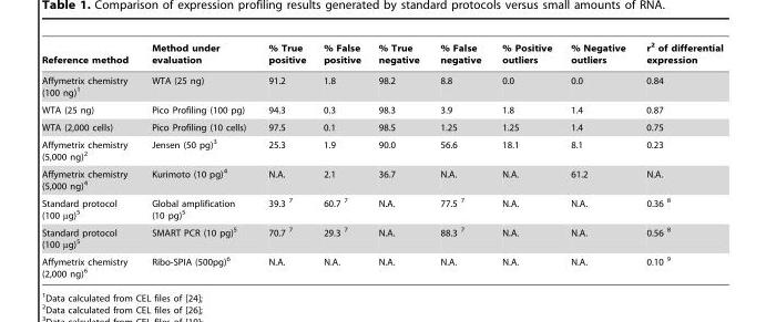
<table><thead><tr><td>Reference method</td><td>Method under evaluation</td><td>% True positive</td><td>% False positive</td><td>% True negative</td><td>% False negative</td><td>% Positive outliers</td><td>% Negative outliers</td><td>r<sup>2</sup> of differential expression</td></tr></thead><tbody><tr><td>Affymetrix chemistry (100 ng)<sup>1</sup></td><td>WTA (25 ng)</td><td>91.2</td><td>1.8</td><td>98.2</td><td>8.8</td><td>0.0</td><td>0.0</td><td>0.84</td></tr><tr><td>WTA (25 ng)</td><td>Pico Profiling (100 pg)</td><td>94.3</td><td>0.3</td><td>98.3</td><td>3.9</td><td>1.8</td><td>1.4</td><td>0.87</td></tr><tr><td>WTA (2,000 cells)</td><td>Pico Profiling (10 cells)</td><td>97.5</td><td>0.1</td><td>98.5</td><td>1.25</td><td>1.25</td><td>1.4</td><td>0.75</td></tr><tr><td>Affymetrix chemistry (5,000 ng)<sup>2</sup></td><td>Jensen (50 pg)<sup>3</sup></td><td>25.3</td><td>1.9</td><td>90.0</td><td>56.6</td><td>18.1</td><td>8.1</td><td>0.23</td></tr><tr><td>Affymetrix chemistry (5,000 ng)<sup>4</sup></td><td>Kurimoto (10 pg)<sup>4</sup></td><td>N.A.</td><td>2.1</td><td>36.7</td><td>N.A.</td><td>N.A.</td><td>61.2</td><td>N.A.</td></tr><tr><td>Standard protocol (100 µg)<sup>5</sup></td><td>Global amplification (10 pg)<sup>5</sup></td><td>39.3 7</td><td>60.7 7</td><td>N.A.</td><td>77.5 7</td><td>N.A.</td><td>N.A.</td><td>0.36 8</td></tr><tr><td>Standard protocol (100 µg)<sup>5</sup></td><td>SMART PCR (10 pg)<sup>5</sup></td><td>70.7 7</td><td>29.3 7</td><td>N.A.</td><td>88.3 7</td><td>N.A.</td><td>N.A.</td><td>0.56 8</td></tr><tr><td>Affymetrix chemistry (2,000 ng)<sup>6</sup></td><td>Ribo-SPIA (500pg)<sup>6</sup></td><td>N.A.</td><td>N.A.</td><td>N.A.</td><td>N.A.</td><td>N.A.</td><td>N.A.</td><td>0.10 9</td></tr></tbody></table>